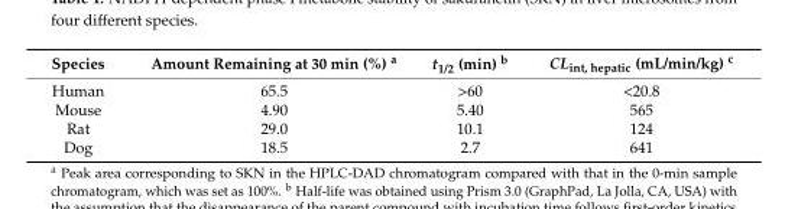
<table><thead><tr><td>Species</td><td>Amount Remaining at 30 min (%) <sup>a</sup></td><td>t<sub>1/2</sub> (min) <sup>b</sup></td><td>CL<sub>int, hepatic</sub> (mL/min/kg) <sup>c</sup></td></tr></thead><tbody><tr><td>Human</td><td>65.5</td><td>&gt;60</td><td>&lt;20.8</td></tr><tr><td>Mouse</td><td>4.90</td><td>5.40</td><td>565</td></tr><tr><td>Rat</td><td>29.0</td><td>10.1</td><td>124</td></tr><tr><td>Dog</td><td>18.5</td><td>2.7</td><td>641</td></tr></tbody></table>